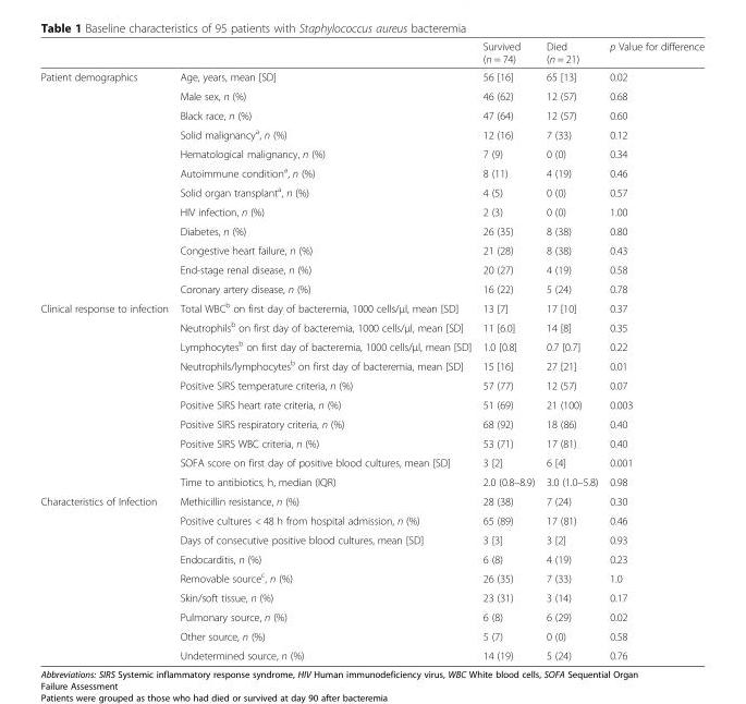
<table><thead><tr><td></td><td></td><td>Survived (n = 74)</td><td>Died (n = 21)</td><td>p Value for difference</td></tr></thead><tbody><tr><td rowspan="12">Patient demographics</td><td>Age, years, mean [SD]</td><td>56 [16]</td><td>65 [13]</td><td>0.02</td></tr><tr><td>Male sex, n (%)</td><td>46 (62)</td><td>12 (57)</td><td>0.68</td></tr><tr><td>Black race, n (%)</td><td>47 (64)</td><td>12 (57)</td><td>0.60</td></tr><tr><td>Solid malignancy<sup>a</sup>, n (%)</td><td>12 (16)</td><td>7 (33)</td><td>0.12</td></tr><tr><td>Hematological malignancy, n (%)</td><td>7 (9)</td><td>0 (0)</td><td>0.34</td></tr><tr><td>Autoimmune condition<sup>a</sup>, n (%)</td><td>8 (11)</td><td>4 (19)</td><td>0.46</td></tr><tr><td>Solid organ transplant<sup>a</sup>, n (%)</td><td>4 (5)</td><td>0 (0)</td><td>0.57</td></tr><tr><td>HIV infection, n (%)</td><td>2 (3)</td><td>0 (0)</td><td>1.00</td></tr><tr><td>Diabetes, n (%)</td><td>26 (35)</td><td>8 (38)</td><td>0.80</td></tr><tr><td>Congestive heart failure, n (%)</td><td>21 (28)</td><td>8 (38)</td><td>0.43</td></tr><tr><td>End-stage renal disease, n (%)</td><td>20 (27)</td><td>4 (19)</td><td>0.58</td></tr><tr><td>Coronary artery disease, n (%)</td><td>16 (22)</td><td>5 (24)</td><td>0.78</td></tr><tr><td rowspan="10">Clinical response to infection</td><td>Total WBC<sup>b</sup> on first day of bacteremia, 1000 cells/μl, mean [SD]</td><td>13 [7]</td><td>17 [10]</td><td>0.37</td></tr><tr><td>Neutrophils<sup>b</sup> on first day of bacteremia, 1000 cells/μl, mean [SD]</td><td>11 [6.0]</td><td>14 [8]</td><td>0.35</td></tr><tr><td>Lymphocytes<sup>b</sup> on first day of bacteremia, 1000 cells/μl, mean [SD]</td><td>1.0 [0.8]</td><td>0.7 [0.7]</td><td>0.22</td></tr><tr><td>Neutrophils/lymphocytes<sup>b</sup> on first day of bacteremia, mean [SD]</td><td>15 [16]</td><td>27 [21]</td><td>0.01</td></tr><tr><td>Positive SIRS temperature criteria, n (%)</td><td>57 (77)</td><td>12 (57)</td><td>0.07</td></tr><tr><td>Positive SIRS heart rate criteria, n (%)</td><td>51 (69)</td><td>21 (100)</td><td>0.003</td></tr><tr><td>Positive SIRS respiratory criteria, n (%)</td><td>68 (92)</td><td>18 (86)</td><td>0.40</td></tr><tr><td>Positive SIRS WBC criteria, n (%)</td><td>53 (71)</td><td>17 (81)</td><td>0.40</td></tr><tr><td>SOFA score on first day of positive blood cultures, mean [SD]</td><td>3 [2]</td><td>6 [4]</td><td>0.001</td></tr><tr><td>Time to antibiotics, h, median (IQR)</td><td>2.0 (0.8–8.9)</td><td>3.0 (1.0–5.8)</td><td>0.98</td></tr><tr><td rowspan="9">Characteristics of Infection</td><td>Methicillin resistance, n (%)</td><td>28 (38)</td><td>7 (24)</td><td>0.30</td></tr><tr><td>Positive cultures &lt; 48 h from hospital admission, n (%)</td><td>65 (89)</td><td>17 (81)</td><td>0.46</td></tr><tr><td>Days of consecutive positive blood cultures, mean [SD]</td><td>3 [3]</td><td>3 [2]</td><td>0.93</td></tr><tr><td>Endocarditis, n (%)</td><td>6 (8)</td><td>4 (19)</td><td>0.23</td></tr><tr><td>Removable source<sup>c</sup>, n (%)</td><td>26 (35)</td><td>7 (33)</td><td>1.0</td></tr><tr><td>Skin/soft tissue, n (%)</td><td>23 (31)</td><td>3 (14)</td><td>0.17</td></tr><tr><td>Pulmonary source, n (%)</td><td>6 (8)</td><td>6 (29)</td><td>0.02</td></tr><tr><td>Other source, n (%)</td><td>5 (7)</td><td>0 (0)</td><td>0.58</td></tr><tr><td>Undetermined source, n (%)</td><td>14 (19)</td><td>5 (24)</td><td>0.76</td></tr></tbody></table>